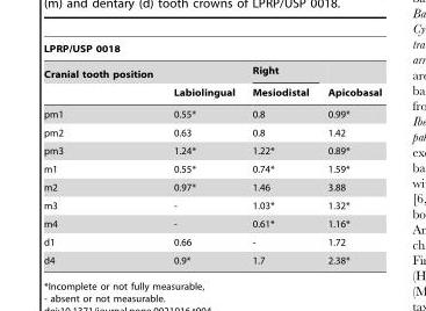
<table><thead><tr><td colspan="4">LPRP/USP 0018</td></tr><tr><td rowspan="2">Cranial tooth position</td><td rowspan="2">Labiolingual</td><td rowspan="2">Right Mesiodistal</td><td rowspan="2">Apicobasal</td></tr><tr></tr></thead><tbody><tr><td>pm1</td><td>0.55*</td><td>0.8</td><td>0.99*</td></tr><tr><td>pm2</td><td>0.63</td><td>0.8</td><td>1.42</td></tr><tr><td>pm3</td><td>1.24*</td><td>1.22*</td><td>0.89*</td></tr><tr><td>m1</td><td>0.55*</td><td>0.74*</td><td>1.59*</td></tr><tr><td>m2</td><td>0.97*</td><td>1.46</td><td>3.88</td></tr><tr><td>m3</td><td>-</td><td>1.03*</td><td>1.32*</td></tr><tr><td>m4</td><td>-</td><td>0.61*</td><td>1.16*</td></tr><tr><td>d1</td><td>0.66</td><td>-</td><td>1.72</td></tr><tr><td>d4</td><td>0.9*</td><td>1.7</td><td>2.38*</td></tr></tbody></table>